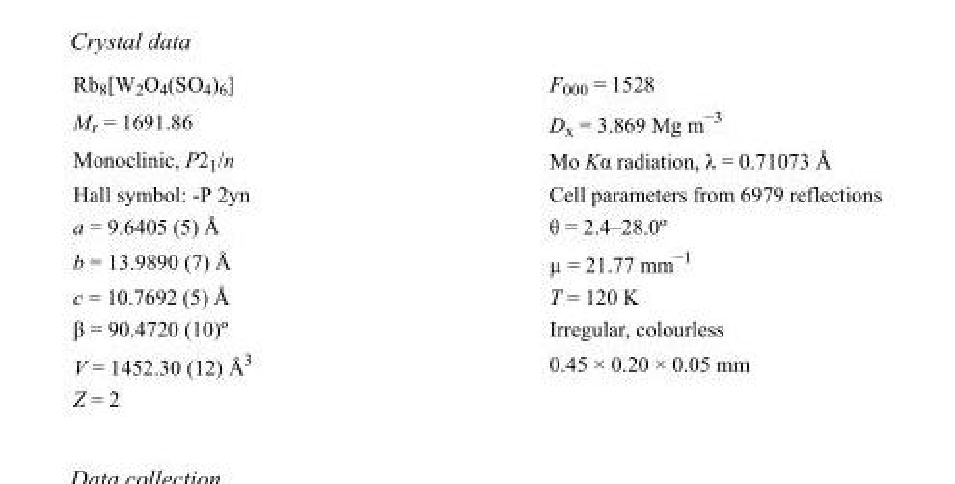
<table><tbody><tr><td>Rb<sub>8</sub>[W<sub>2</sub>O<sub>4</sub>(SO<sub>4</sub>)<sub>6</sub>]</td><td>F000 = 1528</td></tr><tr><td>M<sub>r</sub> = 1691.86</td><td>D<sub>x</sub> = 3.869 Mg m<sup>−3</sup></td></tr><tr><td>Monoclinic, P2<sub>1</sub>/n</td><td>Mo Kα radiation, λ = 0.71073 Å</td></tr><tr><td>Hall symbol: -P 2yn</td><td>Cell parameters from 6979 reflections</td></tr><tr><td>a = 9.6405 (5) Å</td><td>θ = 2.4–28.0º</td></tr><tr><td>b = 13.9890 (7) Å</td><td>µ = 21.77 mm<sup>−1</sup></td></tr><tr><td>c = 10.7692 (5) Å</td><td>T = 120 K</td></tr><tr><td>β = 90.4720 (10)º</td><td>Irregular, colourless</td></tr><tr><td>V = 1452.30 (12) Å<sup>3</sup></td><td>0.45 × 0.20 × 0.05 mm</td></tr><tr><td>Z = 2</td><td></td></tr></tbody></table>